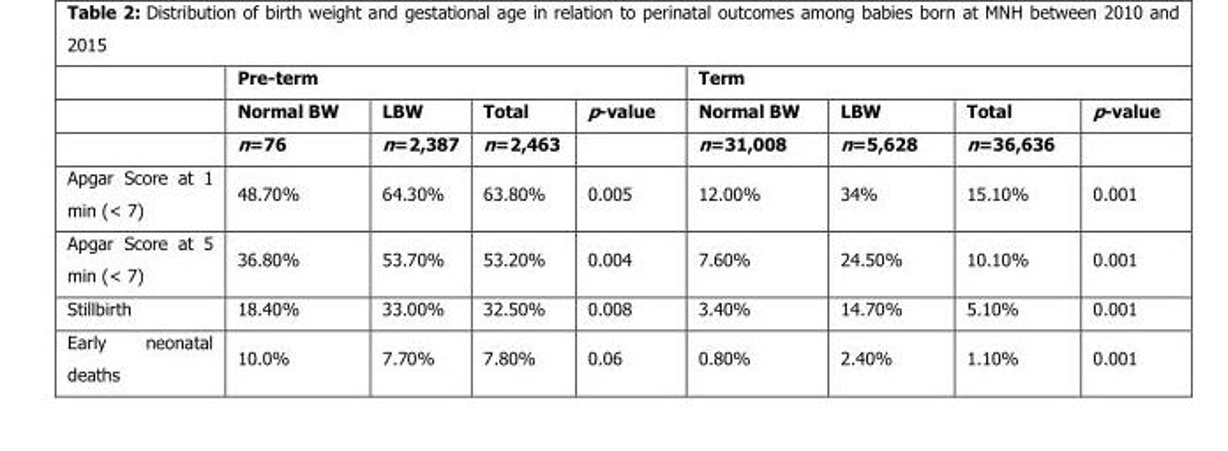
<table><thead><tr><td rowspan="3"></td><td colspan="4">Pre-term</td><td colspan="4">Term</td></tr><tr><td rowspan="2">Normal BW n=76</td><td rowspan="2">LBW n=2,387</td><td rowspan="2">Total n=2,463</td><td rowspan="2">p-value</td><td rowspan="2">Normal BW n=31,008</td><td rowspan="2">LBW n=5,628</td><td rowspan="2">Total n=36,636</td><td rowspan="2">p-value</td></tr><tr></tr></thead><tbody><tr><td>Apgar Score at 1 min (&lt; 7)</td><td>48.70%</td><td>64.30%</td><td>63.80%</td><td>0.005</td><td>12.00%</td><td>34%</td><td>15.10%</td><td>0.001</td></tr><tr><td>Apgar Score at 5 min (&lt; 7)</td><td>36.80%</td><td>53.70%</td><td>53.20%</td><td>0.004</td><td>7.60%</td><td>24.50%</td><td>10.10%</td><td>0.001</td></tr><tr><td>Stillbirth</td><td>18.40%</td><td>33.00%</td><td>32.50%</td><td>0.008</td><td>3.40%</td><td>14.70%</td><td>5.10%</td><td>0.001</td></tr><tr><td>Early neonatal deaths</td><td>10.0%</td><td>7.70%</td><td>7.80%</td><td>0.06</td><td>0.80%</td><td>2.40%</td><td>1.10%</td><td>0.001</td></tr></tbody></table>